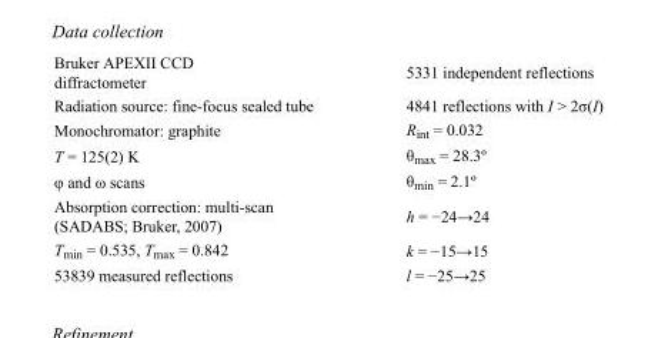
<table><tbody><tr><td>Bruker APEXII CCD diffractometer</td><td>5331 independent reflections</td></tr><tr><td>Radiation source: fine-focus sealed tube</td><td>4841 reflections with I &gt; 2σ(I)</td></tr><tr><td>Monochromator: graphite</td><td>R<sub>int</sub> = 0.032</td></tr><tr><td>T = 125(2) K</td><td>θ<sub>max</sub> = 28.3º</td></tr><tr><td>φ and ω scans</td><td>θ<sub>min</sub> = 2.1º</td></tr><tr><td>Absorption correction: multi-scan (SADABS; Bruker, 2007)</td><td>h = −24→24</td></tr><tr><td>T<sub>min</sub> = 0.535, T<sub>max</sub> = 0.842</td><td>k = −15→15</td></tr><tr><td>53839 measured reflections</td><td>l = −25→25</td></tr></tbody></table>